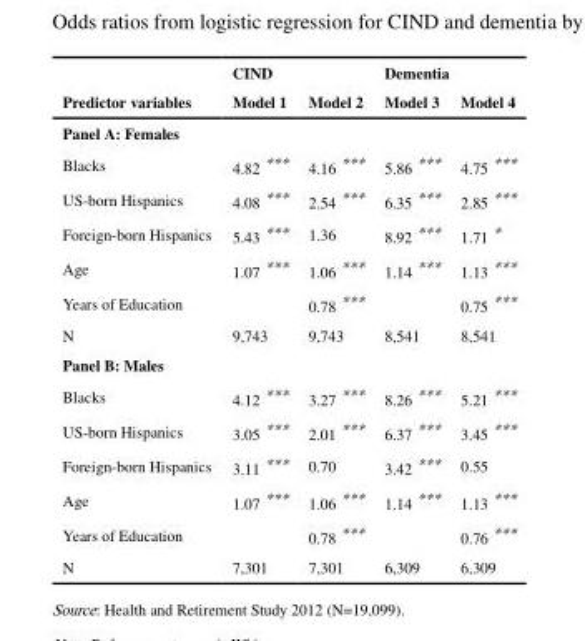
<table><thead><tr><td rowspan="2">Predictor variables</td><td colspan="2">CIND</td><td colspan="2">Dementia</td></tr><tr><td>Model 1</td><td>Model 2</td><td>Model 3</td><td>Model 4</td></tr></thead><tbody><tr><td colspan="5">Panel A: Females</td></tr><tr><td>Blacks</td><td>4.82 ***</td><td>4.16 ***</td><td>5.86 ***</td><td>4.75 ***</td></tr><tr><td>US-born Hispanics</td><td>4.08 ***</td><td>2.54 ***</td><td>6.35 ***</td><td>2.85 ***</td></tr><tr><td>Foreign-born Hispanics</td><td>5.43 ***</td><td>1.36</td><td>8.92 ***</td><td>1.71 *</td></tr><tr><td>Age</td><td>1.07 ***</td><td>1.06 ***</td><td>1.14 ***</td><td>1.13 ***</td></tr><tr><td>Years of Education</td><td></td><td>0.78 ***</td><td></td><td>0.75 ***</td></tr><tr><td>N</td><td>9,743</td><td>9,743</td><td>8,541</td><td>8,541</td></tr><tr><td colspan="5">Panel B: Males</td></tr><tr><td>Blacks</td><td>4.12 ***</td><td>3.27 ***</td><td>8.26 ***</td><td>5.21 ***</td></tr><tr><td>US-born Hispanics</td><td>3.05 ***</td><td>2.01 ***</td><td>6.37 ***</td><td>3.45 ***</td></tr><tr><td>Foreign-born Hispanics</td><td>3.11 ***</td><td>0.70</td><td>3.42 ***</td><td>0.55</td></tr><tr><td>Age</td><td>1.07 ***</td><td>1.06 ***</td><td>1.14 ***</td><td>1.13 ***</td></tr><tr><td>Years of Education</td><td></td><td>0.78 ***</td><td></td><td>0.76 ***</td></tr><tr><td>N</td><td>7,301</td><td>7,301</td><td>6,309</td><td>6,309</td></tr></tbody></table>